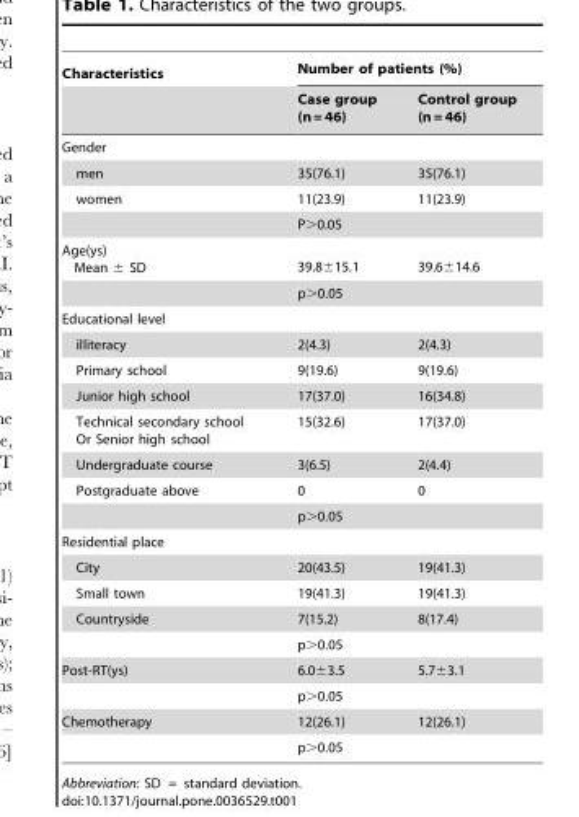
<table><thead><tr><td rowspan="2">Characteristics</td><td colspan="2">Number of patients (%)</td></tr><tr><td>Case group (n = 46)</td><td>Control group (n = 46)</td></tr></thead><tbody><tr><td colspan="3">Gender</td></tr><tr><td>men</td><td>35(76.1)</td><td>35(76.1)</td></tr><tr><td rowspan="2">women</td><td>11(23.9)</td><td>11(23.9)</td></tr><tr><td colspan="2">P&gt;0.05</td></tr><tr><td rowspan="2">Age(ys) Mean ± SD</td><td>39.8±15.1</td><td>39.6±14.6</td></tr><tr><td colspan="2">p&gt;0.05</td></tr><tr><td colspan="3">Educational level</td></tr><tr><td>illiteracy</td><td>2(4.3)</td><td>2(4.3)</td></tr><tr><td>Primary school</td><td>9(19.6)</td><td>9(19.6)</td></tr><tr><td>Junior high school</td><td>17(37.0)</td><td>16(34.8)</td></tr><tr><td>Technical secondary school Or Senior high school</td><td>15(32.6)</td><td>17(37.0)</td></tr><tr><td>Undergraduate course</td><td>3(6.5)</td><td>2(4.4)</td></tr><tr><td rowspan="2">Postgraduate above</td><td>0</td><td>0</td></tr><tr><td colspan="2">p&gt;0.05</td></tr><tr><td colspan="3">Residential place</td></tr><tr><td>City</td><td>20(43.5)</td><td>19(41.3)</td></tr><tr><td>Small town</td><td>19(41.3)</td><td>19(41.3)</td></tr><tr><td rowspan="2">Countryside</td><td>7(15.2)</td><td>8(17.4)</td></tr><tr><td colspan="2">p&gt;0.05</td></tr><tr><td rowspan="2">Post-RT(ys)</td><td>6.0±3.5</td><td>5.7±3.1</td></tr><tr><td colspan="2">p&gt;0.05</td></tr><tr><td rowspan="2">Chemotherapy</td><td>12(26.1)</td><td>12(26.1)</td></tr><tr><td colspan="2">p&gt;0.05</td></tr></tbody></table>